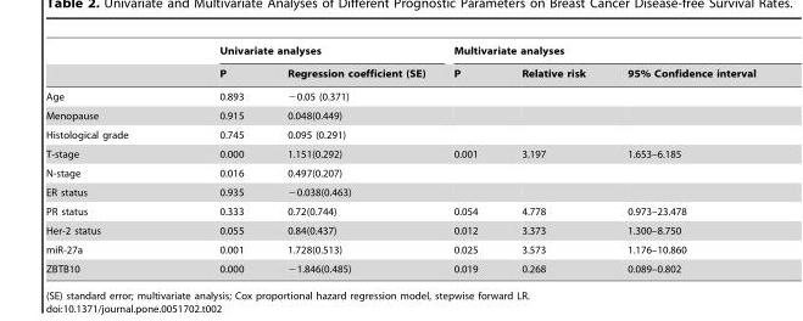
<table><thead><tr><td rowspan="2"></td><td colspan="2">Univariate analyses</td><td colspan="3">Multivariate analyses</td></tr><tr><td>P</td><td>Regression coefficient (SE)</td><td>P</td><td>Relative risk</td><td>95% Confidence interval</td></tr></thead><tbody><tr><td>Age</td><td>0.893</td><td>−0.05 (0.371)</td><td></td><td></td><td></td></tr><tr><td>Menopause</td><td>0.915</td><td>0.048(0.449)</td><td></td><td></td><td></td></tr><tr><td>Histological grade</td><td>0.745</td><td>0.095 (0.291)</td><td></td><td></td><td></td></tr><tr><td>T-stage</td><td>0.000</td><td>1.151(0.292)</td><td>0.001</td><td>3.197</td><td>1.653–6.185</td></tr><tr><td>N-stage</td><td>0.016</td><td>0.497(0.207)</td><td></td><td></td><td></td></tr><tr><td>ER status</td><td>0.935</td><td>−0.038(0.463)</td><td></td><td></td><td></td></tr><tr><td>PR status</td><td>0.333</td><td>0.72(0.744)</td><td>0.054</td><td>4.778</td><td>0.973–23.478</td></tr><tr><td>Her-2 status</td><td>0.055</td><td>0.84(0.437)</td><td>0.012</td><td>3.373</td><td>1.300–8.750</td></tr><tr><td>miR-27a</td><td>0.001</td><td>1.728(0.513)</td><td>0.025</td><td>3.573</td><td>1.176–10.860</td></tr><tr><td>ZBTB10</td><td>0.000</td><td>−1.846(0.485)</td><td>0.019</td><td>0.268</td><td>0.089–0.802</td></tr></tbody></table>